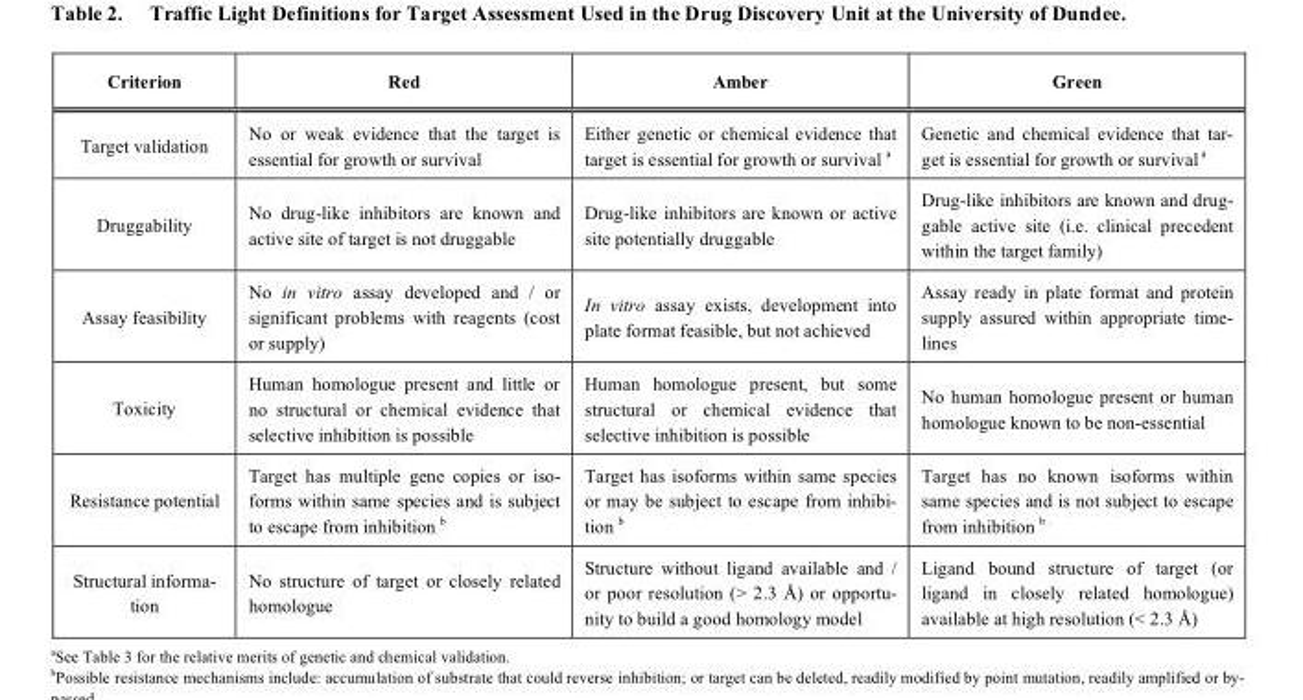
<table><thead><tr><td>Criterion</td><td>Red</td><td>Amber</td><td>Green</td></tr></thead><tbody><tr><td>Target validation</td><td>No or weak evidence that the target is essential for growth or survival</td><td>Either genetic or chemical evidence that target is essential for growth or survival a</td><td>Genetic and chemical evidence that tar- get is essential for growth or survival a</td></tr><tr><td>Druggability</td><td>No drug-like inhibitors are known and active site of target is not druggable</td><td>Drug-like inhibitors are known or active site potentially druggable</td><td>Drug-like inhibitors are known and drug- gable active site (i.e. clinical precedent within the target family)</td></tr><tr><td>Assay feasibility</td><td>No in vitro assay developed and / or significant problems with reagents (cost or supply)</td><td>In vitro assay exists, development into plate format feasible, but not achieved</td><td>Assay ready in plate format and protein supply assured within appropriate time- lines</td></tr><tr><td>Toxicity</td><td>Human homologue present and little or no structural or chemical evidence that selective inhibition is possible</td><td>Human homologue present, but some structural or chemical evidence that selective inhibition is possible</td><td>No human homologue present or human homologue known to be non-essential</td></tr><tr><td>Resistance potential</td><td>Target has multiple gene copies or iso- forms within same species and is subject to escape from inhibition b</td><td>Target has isoforms within same species or may be subject to escape from inhibi- tion b</td><td>Target has no known isoforms within same species and is not subject to escape from inhibition b</td></tr><tr><td>Structural informa- tion</td><td>No structure of target or closely related homologue</td><td>Structure without ligand available and / or poor resolution (&gt; 2.3 Å) or opportu- nity to build a good homology model</td><td>Ligand bound structure of target (or ligand in closely related homologue) available at high resolution (&lt; 2.3 Å)</td></tr></tbody></table>